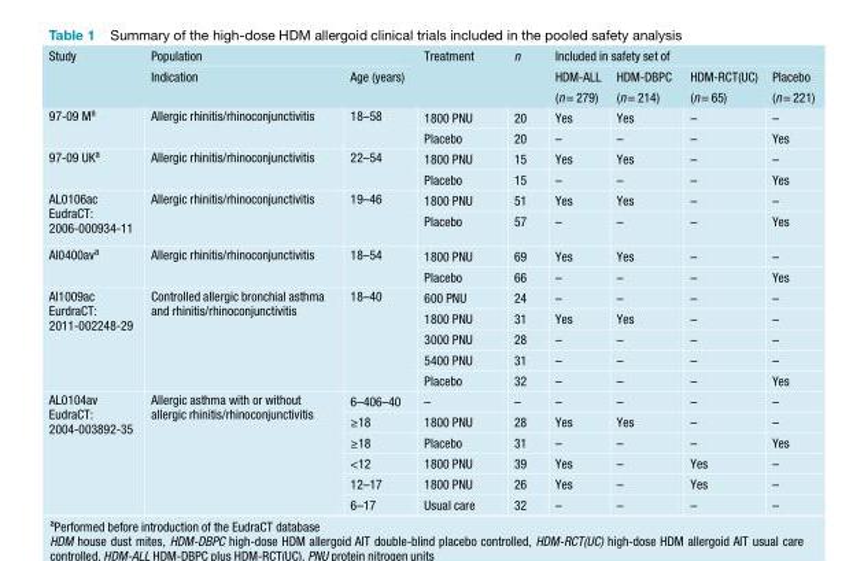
<table><thead><tr><td rowspan="3">Study</td><td colspan="2">Population</td><td rowspan="3">Treatment</td><td rowspan="3">n</td><td colspan="4">Included in safety set of</td></tr><tr><td rowspan="2">Indication</td><td rowspan="2">Age (years)</td><td rowspan="2">HDM-ALL (n= 279)</td><td rowspan="2">HDM-DBPC (n= 214)</td><td rowspan="2">HDM-RCT(UC) (n= 65)</td><td rowspan="2">Placebo (n= 221)</td></tr><tr></tr></thead><tbody><tr><td rowspan="2">97-09 M<sup>a</sup></td><td rowspan="2">Allergic rhinitis/rhinoconjunctivitis</td><td rowspan="2">18–58</td><td>1800 PNU</td><td>20</td><td>Yes</td><td>Yes</td><td>–</td><td>–</td></tr><tr><td>Placebo</td><td>20</td><td>–</td><td>–</td><td>–</td><td>Yes</td></tr><tr><td rowspan="2">97-09 UK<sup>a</sup></td><td rowspan="2">Allergic rhinitis/rhinoconjunctivitis</td><td rowspan="2">22–54</td><td>1800 PNU</td><td>15</td><td>Yes</td><td>Yes</td><td>–</td><td>–</td></tr><tr><td>Placebo</td><td>15</td><td>–</td><td>–</td><td>–</td><td>Yes</td></tr><tr><td rowspan="2">AL0106ac EudraCT: 2006-000934-11</td><td rowspan="2">Allergic rhinitis/rhinoconjunctivitis</td><td rowspan="2">19–46</td><td>1800 PNU</td><td>51</td><td>Yes</td><td>Yes</td><td>–</td><td>–</td></tr><tr><td>Placebo</td><td>57</td><td>–</td><td>–</td><td>–</td><td>Yes</td></tr><tr><td rowspan="2">Al0400av<sup>a</sup></td><td rowspan="2">Allergic rhinitis/rhinoconjunctivitis</td><td rowspan="2">18–54</td><td>1800 PNU</td><td>69</td><td>Yes</td><td>Yes</td><td>–</td><td>–</td></tr><tr><td>Placebo</td><td>66</td><td>–</td><td>–</td><td>–</td><td>Yes</td></tr><tr><td rowspan="5">Al1009ac EurdraCT: 2011-002248-29</td><td rowspan="5">Controlled allergic bronchial asthma and rhinitis/rhinoconjunctivitis</td><td rowspan="5">18–40</td><td>600 PNU</td><td>24</td><td>–</td><td>–</td><td>–</td><td>–</td></tr><tr><td>1800 PNU</td><td>31</td><td>Yes</td><td>Yes</td><td>–</td><td>–</td></tr><tr><td>3000 PNU</td><td>28</td><td>–</td><td>–</td><td>–</td><td>–</td></tr><tr><td>5400 PNU</td><td>31</td><td>–</td><td>–</td><td>–</td><td>–</td></tr><tr><td>Placebo</td><td>32</td><td>–</td><td>–</td><td>–</td><td>Yes</td></tr><tr><td rowspan="6">AL0104av EudraCT: 2004-003892-35</td><td rowspan="6">Allergic asthma with or without allergic rhinitis/rhinoconjunctivitis</td><td>6–406–40</td><td>–</td><td>–</td><td>–</td><td>–</td><td>–</td><td>–</td></tr><tr><td>≥18</td><td>1800 PNU</td><td>28</td><td>Yes</td><td>Yes</td><td>–</td><td>–</td></tr><tr><td>≥18</td><td>Placebo</td><td>31</td><td>–</td><td>–</td><td>–</td><td>Yes</td></tr><tr><td>&lt;12</td><td>1800 PNU</td><td>39</td><td>Yes</td><td>–</td><td>Yes</td><td>–</td></tr><tr><td>12–17</td><td>1800 PNU</td><td>26</td><td>Yes</td><td>–</td><td>Yes</td><td>–</td></tr><tr><td>6–17</td><td>Usual care</td><td>32</td><td>–</td><td>–</td><td>–</td><td>–</td></tr></tbody></table>